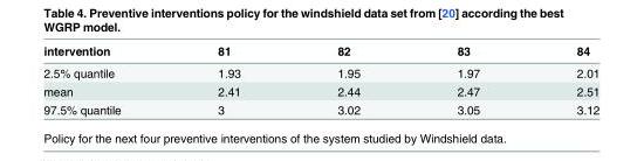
<table><thead><tr><td>intervention</td><td>81</td><td>82</td><td>83</td><td>84</td></tr></thead><tbody><tr><td>2.5% quantile</td><td>1.93</td><td>1.95</td><td>1.97</td><td>2.01</td></tr><tr><td>mean</td><td>2.41</td><td>2.44</td><td>2.47</td><td>2.51</td></tr><tr><td>97.5% quantile</td><td>3</td><td>3.02</td><td>3.05</td><td>3.12</td></tr></tbody></table>